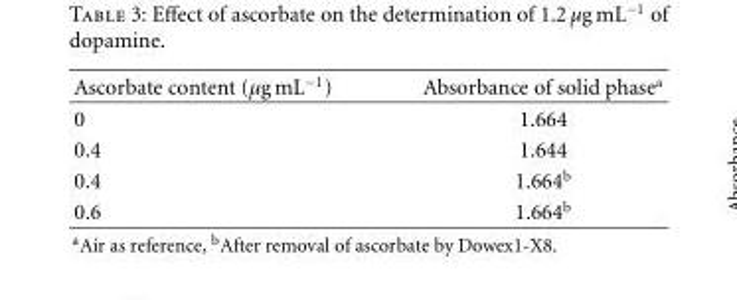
<table><thead><tr><td>Ascorbate content (µg mL<sup>−1</sup>)</td><td>Absorbance of solid phase<sup>a</sup></td></tr></thead><tbody><tr><td>0</td><td>1.664</td></tr><tr><td>0.4</td><td>1.644</td></tr><tr><td>0.4</td><td>1.664<sup>b</sup></td></tr><tr><td>0.6</td><td>1.664<sup>b</sup></td></tr></tbody></table>